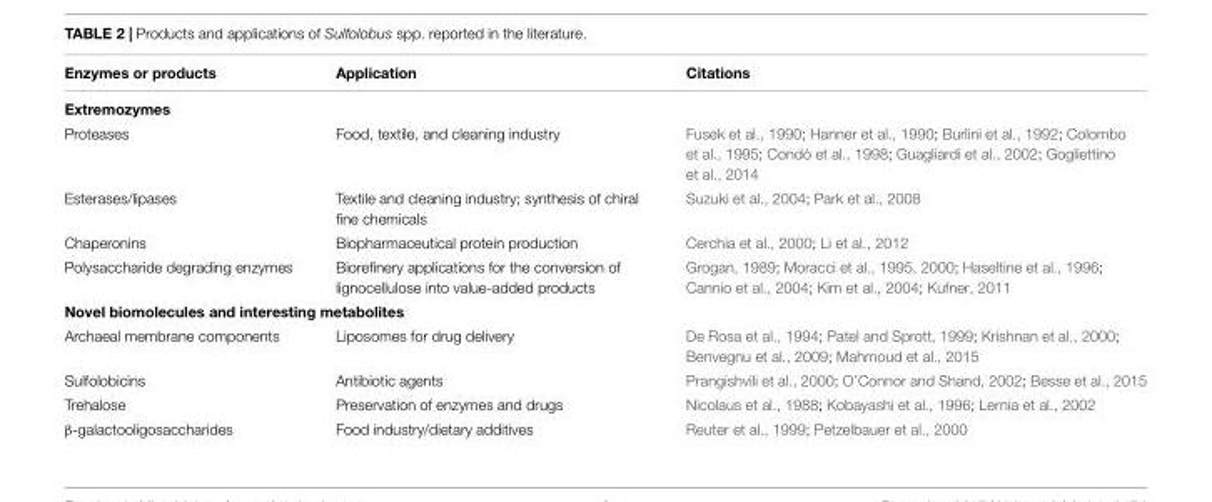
<table><thead><tr><td>Enzymes or products</td><td>Application</td><td>Citations</td></tr></thead><tbody><tr><td colspan="3">Extremozymes</td></tr><tr><td>Proteases</td><td>Food, textile, and cleaning industry</td><td>Fusek et al., 1990; Hanner et al., 1990; Burlini et al., 1992; Colombo et al., 1995; Condò et al., 1998; Guagliardi et al., 2002; Gogliettino et al., 2014</td></tr><tr><td>Esterases/lipases</td><td>Textile and cleaning industry; synthesis of chiral fine chemicals</td><td>Suzuki et al., 2004; Park et al., 2008</td></tr><tr><td>Chaperonins</td><td>Biopharmaceutical protein production</td><td>Cerchia et al., 2000; Li et al., 2012</td></tr><tr><td>Polysaccharide degrading enzymes</td><td>Biorefinery applications for the conversion of lignocellulose into value-added products</td><td>Grogan, 1989; Moracci et al., 1995, 2000; Haseltine et al., 1996; Cannio et al., 2004; Kim et al., 2004; Kufner, 2011</td></tr><tr><td colspan="3">Novel biomolecules and interesting metabolites</td></tr><tr><td>Archaeal membrane components</td><td>Liposomes for drug delivery</td><td>De Rosa et al., 1994; Patel and Sprott, 1999; Krishnan et al., 2000; Benvegnu et al., 2009; Mahmoud et al., 2015</td></tr><tr><td>Sulfolobicins</td><td>Antibiotic agents</td><td>Prangishvili et al., 2000; O’Connor and Shand, 2002; Besse et al., 2015</td></tr><tr><td>Trehalose</td><td>Preservation of enzymes and drugs</td><td>Nicolaus et al., 1988; Kobayashi et al., 1996; Lernia et al., 2002</td></tr><tr><td>β-galactooligosaccharides</td><td>Food industry/dietary additives</td><td>Reuter et al., 1999; Petzelbauer et al., 2000</td></tr></tbody></table>